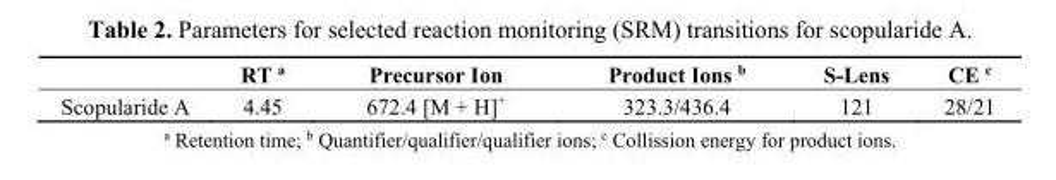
<table><thead><tr><td></td><td>RT <sup>a</sup></td><td>Precursor Ion</td><td>Product Ions <sup>b</sup></td><td>S-Lens</td><td>CE <sup>c</sup></td></tr></thead><tbody><tr><td>Scopularide A</td><td>4.45</td><td>672.4 [M + H]<sup>+</sup></td><td>323.3/436.4</td><td>121</td><td>28/21</td></tr></tbody></table>